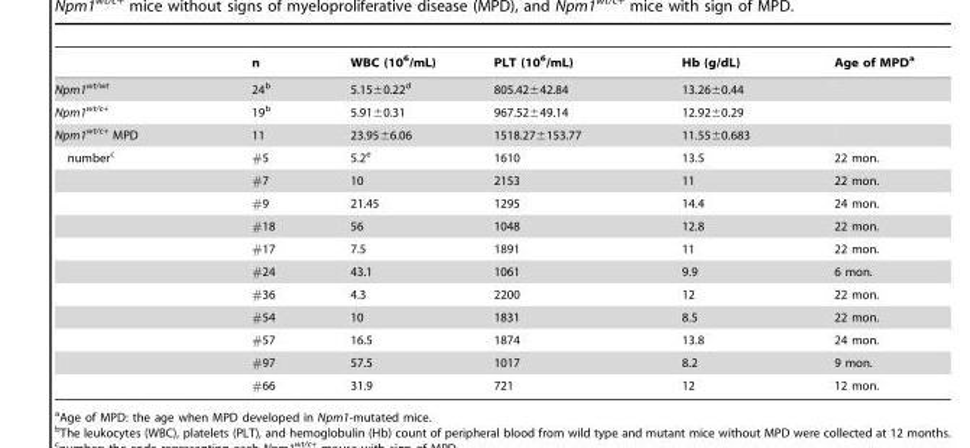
<table><thead><tr><td></td><td>n</td><td>WBC (10<sup>6</sup>/mL)</td><td>PLT (10<sup>6</sup>/mL)</td><td>Hb (g/dL)</td><td>Age of MPD<sup>a</sup></td></tr></thead><tbody><tr><td>Npm1<sup>wt/wt</sup></td><td>24<sup>b</sup></td><td>5.15±0.22<sup>d</sup></td><td>805.42±42.84</td><td>13.26±0.44</td><td></td></tr><tr><td>Npm1<sup>wt/c+</sup></td><td>19<sup>b</sup></td><td>5.91±0.31</td><td>967.52±49.14</td><td>12.92±0.29</td><td></td></tr><tr><td>Npm1<sup>wt/c+</sup> MPD</td><td>11</td><td>23.95±6.06</td><td>1518.27±153.77</td><td>11.55±0.683</td><td></td></tr><tr><td rowspan="11">number<sup>c</sup></td><td>#5</td><td>5.2<sup>e</sup></td><td>1610</td><td>13.5</td><td>22 mon.</td></tr><tr><td>#7</td><td>10</td><td>2153</td><td>11</td><td>22 mon.</td></tr><tr><td>#9</td><td>21.45</td><td>1295</td><td>14.4</td><td>24 mon.</td></tr><tr><td>#18</td><td>56</td><td>1048</td><td>12.8</td><td>22 mon.</td></tr><tr><td>#17</td><td>7.5</td><td>1891</td><td>11</td><td>22 mon.</td></tr><tr><td>#24</td><td>43.1</td><td>1061</td><td>9.9</td><td>6 mon.</td></tr><tr><td>#36</td><td>4.3</td><td>2200</td><td>12</td><td>22 mon.</td></tr><tr><td>#54</td><td>10</td><td>1831</td><td>8.5</td><td>22 mon.</td></tr><tr><td>#57</td><td>16.5</td><td>1874</td><td>13.8</td><td>24 mon.</td></tr><tr><td>#97</td><td>57.5</td><td>1017</td><td>8.2</td><td>9 mon.</td></tr><tr><td>#66</td><td>31.9</td><td>721</td><td>12</td><td>12 mon.</td></tr></tbody></table>